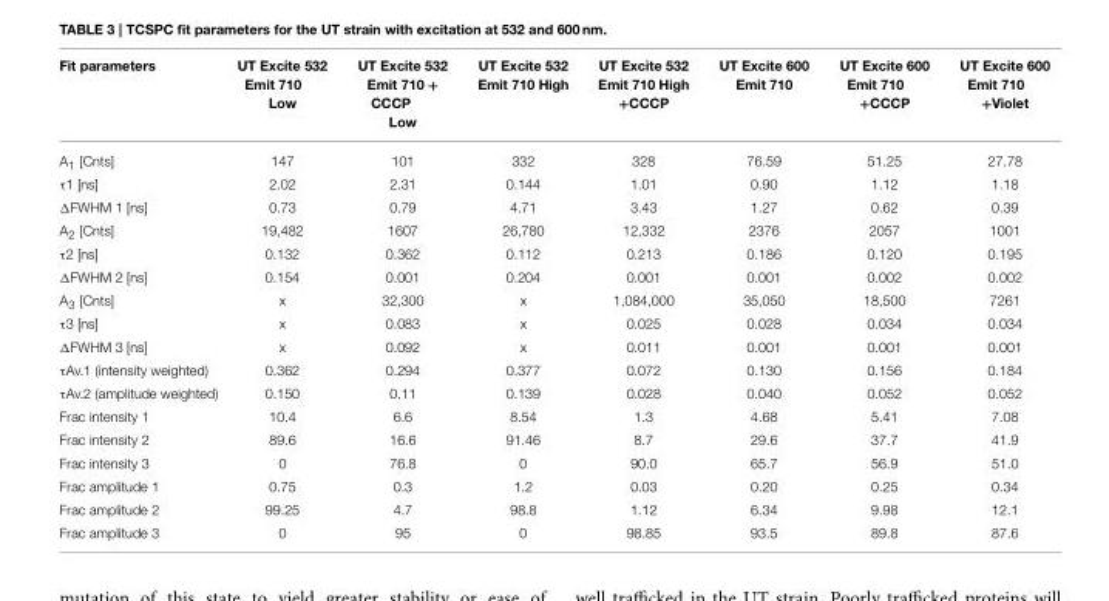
<table><thead><tr><td>Fit parameters</td><td>UT Excite 532 Emit 710 Low</td><td>UT Excite 532 Emit 710 + CCCP Low</td><td>UT Excite 532 Emit 710 High</td><td>UT Excite 532 Emit 710 High +CCCP</td><td>UT Excite 600 Emit 710</td><td>UT Excite 600 Emit 710 +CCCP</td><td>UT Excite 600 Emit 710 +Violet</td></tr></thead><tbody><tr><td>A<sub>1</sub> [Cnts]</td><td>147</td><td>101</td><td>332</td><td>328</td><td>76.59</td><td>51.25</td><td>27.78</td></tr><tr><td>τ1 [ns]</td><td>2.02</td><td>2.31</td><td>0.144</td><td>1.01</td><td>0.90</td><td>1.12</td><td>1.18</td></tr><tr><td>ΔFWHM 1 [ns]</td><td>0.73</td><td>0.79</td><td>4.71</td><td>3.43</td><td>1.27</td><td>0.62</td><td>0.39</td></tr><tr><td>A<sub>2</sub> [Cnts]</td><td>19,482</td><td>1607</td><td>26,780</td><td>12,332</td><td>2376</td><td>2057</td><td>1001</td></tr><tr><td>τ2 [ns]</td><td>0.132</td><td>0.362</td><td>0.112</td><td>0.213</td><td>0.186</td><td>0.120</td><td>0.195</td></tr><tr><td>ΔFWHM 2 [ns]</td><td>0.154</td><td>0.001</td><td>0.204</td><td>0.001</td><td>0.001</td><td>0.002</td><td>0.002</td></tr><tr><td>A<sub>3</sub> [Cnts]</td><td>x</td><td>32,300</td><td>x</td><td>1,084,000</td><td>35,050</td><td>18,500</td><td>7261</td></tr><tr><td>τ3 [ns]</td><td>x</td><td>0.083</td><td>x</td><td>0.025</td><td>0.028</td><td>0.034</td><td>0.034</td></tr><tr><td>ΔFWHM 3 [ns]</td><td>x</td><td>0.092</td><td>x</td><td>0.011</td><td>0.001</td><td>0.001</td><td>0.001</td></tr><tr><td>τAv.1 (intensity weighted)</td><td>0.362</td><td>0.294</td><td>0.377</td><td>0.072</td><td>0.130</td><td>0.156</td><td>0.184</td></tr><tr><td>τAv.2 (amplitude weighted)</td><td>0.150</td><td>0.11</td><td>0.139</td><td>0.028</td><td>0.040</td><td>0.052</td><td>0.052</td></tr><tr><td>Frac intensity 1</td><td>10.4</td><td>6.6</td><td>8.54</td><td>1.3</td><td>4.68</td><td>5.41</td><td>7.08</td></tr><tr><td>Frac intensity 2</td><td>89.6</td><td>16.6</td><td>91.46</td><td>8.7</td><td>29.6</td><td>37.7</td><td>41.9</td></tr><tr><td>Frac intensity 3</td><td>0</td><td>76.8</td><td>0</td><td>90.0</td><td>65.7</td><td>56.9</td><td>51.0</td></tr><tr><td>Frac amplitude 1</td><td>0.75</td><td>0.3</td><td>1.2</td><td>0.03</td><td>0.20</td><td>0.25</td><td>0.34</td></tr><tr><td>Frac amplitude 2</td><td>99.25</td><td>4.7</td><td>98.8</td><td>1.12</td><td>6.34</td><td>9.98</td><td>12.1</td></tr><tr><td>Frac amplitude 3</td><td>0</td><td>95</td><td>0</td><td>98.85</td><td>93.5</td><td>89.8</td><td>87.6</td></tr></tbody></table>